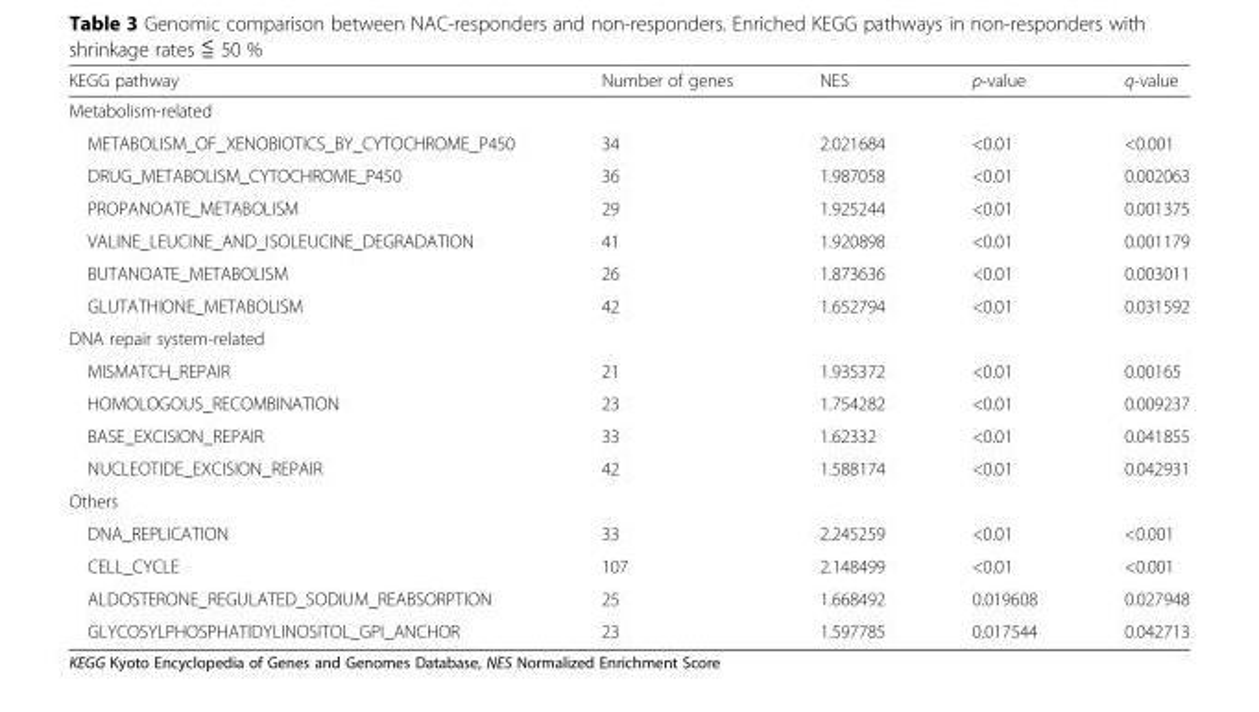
<table><thead><tr><td>KEGG pathway</td><td>Number of genes</td><td>NES</td><td>p-value</td><td>q-value</td></tr></thead><tbody><tr><td colspan="5">Metabolism-related</td></tr><tr><td>METABOLISM_OF_XENOBIOTICS_BY_CYTOCHROME_P450</td><td>34</td><td>2.021684</td><td>&lt;0.01</td><td>&lt;0.001</td></tr><tr><td>DRUG_METABOLISM_CYTOCHROME_P450</td><td>36</td><td>1.987058</td><td>&lt;0.01</td><td>0.002063</td></tr><tr><td>PROPANOATE_METABOLISM</td><td>29</td><td>1.925244</td><td>&lt;0.01</td><td>0.001375</td></tr><tr><td>VALINE_LEUCINE_AND_ISOLEUCINE_DEGRADATION</td><td>41</td><td>1.920898</td><td>&lt;0.01</td><td>0.001179</td></tr><tr><td>BUTANOATE_METABOLISM</td><td>26</td><td>1.873636</td><td>&lt;0.01</td><td>0.003011</td></tr><tr><td>GLUTATHIONE_METABOLISM</td><td>42</td><td>1.652794</td><td>&lt;0.01</td><td>0.031592</td></tr><tr><td colspan="5">DNA repair system-related</td></tr><tr><td>MISMATCH_REPAIR</td><td>21</td><td>1.935372</td><td>&lt;0.01</td><td>0.00165</td></tr><tr><td>HOMOLOGOUS_RECOMBINATION</td><td>23</td><td>1.754282</td><td>&lt;0.01</td><td>0.009237</td></tr><tr><td>BASE_EXCISION_REPAIR</td><td>33</td><td>1.62332</td><td>&lt;0.01</td><td>0.041855</td></tr><tr><td>NUCLEOTIDE_EXCISION_REPAIR</td><td>42</td><td>1.588174</td><td>&lt;0.01</td><td>0.042931</td></tr><tr><td colspan="5">Others</td></tr><tr><td>DNA_REPLICATION</td><td>33</td><td>2.245259</td><td>&lt;0.01</td><td>&lt;0.001</td></tr><tr><td>CELL_CYCLE</td><td>107</td><td>2.148499</td><td>&lt;0.01</td><td>&lt;0.001</td></tr><tr><td>ALDOSTERONE_REGULATED_SODIUM_REABSORPTION</td><td>25</td><td>1.668492</td><td>0.019608</td><td>0.027948</td></tr><tr><td>GLYCOSYLPHOSPHATIDYLINOSITOL_GPI_ANCHOR</td><td>23</td><td>1.597785</td><td>0.017544</td><td>0.042713</td></tr></tbody></table>